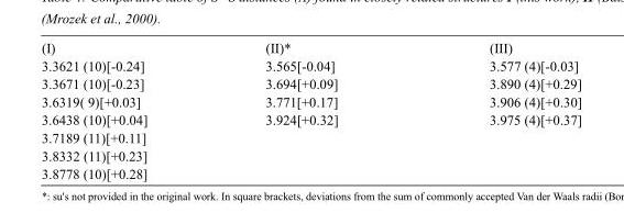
<table><tbody><tr><td>(I)</td><td>(II)*</td><td>(III)</td></tr><tr><td>3.3621 (10)[-0.24]</td><td>3.565[-0.04]</td><td>3.577 (4)[-0.03]</td></tr><tr><td>3.3671 (10)[-0.23]</td><td>3.694[+0.09]</td><td>3.890 (4)[+0.29]</td></tr><tr><td>3.6319( 9)[+0.03]</td><td>3.771[+0.17]</td><td>3.906 (4)[+0.30]</td></tr><tr><td>3.6438 (10)[+0.04]</td><td>3.924[+0.32]</td><td>3.975 (4)[+0.37]</td></tr><tr><td colspan="3">3.7189 (11)[+0.11]</td></tr><tr><td colspan="3">3.8332 (11)[+0.23]</td></tr><tr><td>3.8778 (10)[+0.28]</td><td></td><td></td></tr></tbody></table>